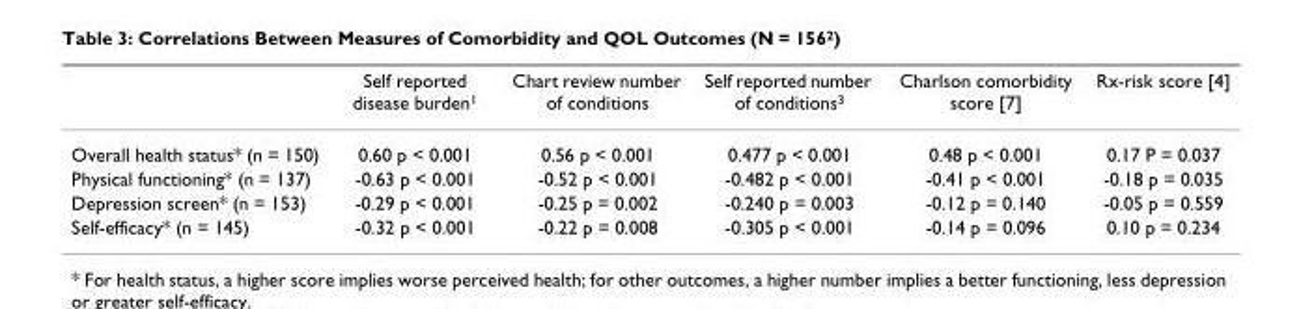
<table><thead><tr><td></td><td>Self reported disease burden<sup>1</sup></td><td>Chart review number of conditions</td><td>Self reported number of conditions<sup>3</sup></td><td>Charlson comorbidity score [7]</td><td>Rx-risk score [4]</td></tr></thead><tbody><tr><td>Overall health status* (n = 150)</td><td>0.60 p &lt; 0.001</td><td>0.56 p &lt; 0.001</td><td>0.477 p &lt; 0.001</td><td>0.48 p &lt; 0.001</td><td>0.17 P = 0.037</td></tr><tr><td>Physical functioning* (n = 137)</td><td>-0.63 p &lt; 0.001</td><td>-0.52 p &lt; 0.001</td><td>-0.482 p &lt; 0.001</td><td>-0.41 p &lt; 0.001</td><td>-0.18 p = 0.035</td></tr><tr><td>Depression screen* (n = 153)</td><td>-0.29 p &lt; 0.001</td><td>-0.25 p = 0.002</td><td>-0.240 p = 0.003</td><td>-0.12 p = 0.140</td><td>-0.05 p = 0.559</td></tr><tr><td>Self-efficacy* (n = 145)</td><td>-0.32 p &lt; 0.001</td><td>-0.22 p = 0.008</td><td>-0.305 p &lt; 0.001</td><td>-0.14 p = 0.096</td><td>0.10 p = 0.234</td></tr></tbody></table>